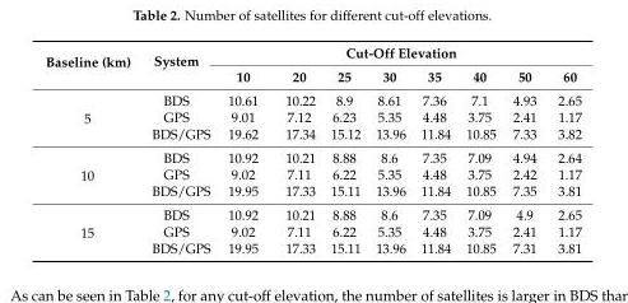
<table><thead><tr><td rowspan="2">Baseline (km)</td><td rowspan="2">System</td><td colspan="8">Cut-Off Elevation</td></tr><tr><td>10</td><td>20</td><td>25</td><td>30</td><td>35</td><td>40</td><td>50</td><td>60</td></tr></thead><tbody><tr><td rowspan="3">5</td><td>BDS</td><td>10.61</td><td>10.22</td><td>8.9</td><td>8.61</td><td>7.36</td><td>7.1</td><td>4.93</td><td>2.65</td></tr><tr><td>GPS</td><td>9.01</td><td>7.12</td><td>6.23</td><td>5.35</td><td>4.48</td><td>3.75</td><td>2.41</td><td>1.17</td></tr><tr><td>BDS/GPS</td><td>19.62</td><td>17.34</td><td>15.12</td><td>13.96</td><td>11.84</td><td>10.85</td><td>7.33</td><td>3.82</td></tr><tr><td rowspan="3">10</td><td>BDS</td><td>10.92</td><td>10.21</td><td>8.88</td><td>8.6</td><td>7.35</td><td>7.09</td><td>4.94</td><td>2.64</td></tr><tr><td>GPS</td><td>9.02</td><td>7.11</td><td>6.22</td><td>5.35</td><td>4.48</td><td>3.75</td><td>2.42</td><td>1.17</td></tr><tr><td>BDS/GPS</td><td>19.95</td><td>17.33</td><td>15.11</td><td>13.96</td><td>11.84</td><td>10.85</td><td>7.35</td><td>3.81</td></tr><tr><td rowspan="3">15</td><td>BDS</td><td>10.92</td><td>10.21</td><td>8.88</td><td>8.6</td><td>7.35</td><td>7.09</td><td>4.9</td><td>2.65</td></tr><tr><td>GPS</td><td>9.02</td><td>7.11</td><td>6.22</td><td>5.35</td><td>4.48</td><td>3.75</td><td>2.41</td><td>1.17</td></tr><tr><td>BDS/GPS</td><td>19.95</td><td>17.33</td><td>15.11</td><td>13.96</td><td>11.84</td><td>10.85</td><td>7.31</td><td>3.81</td></tr></tbody></table>